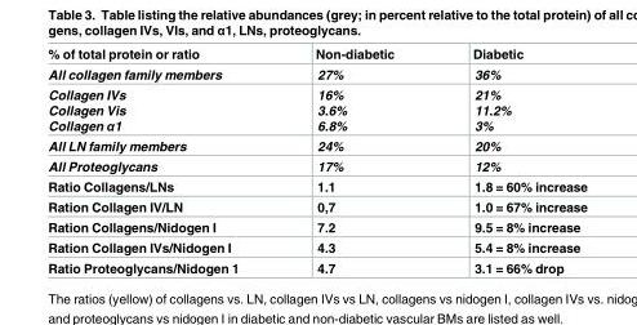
<table><thead><tr><td>% of total protein or ratio</td><td>Non-diabetic</td><td>Diabetic</td></tr></thead><tbody><tr><td>All collagen family members</td><td>27%</td><td>36%</td></tr><tr><td>Collagen IVs Collagen Vis Collagen α1</td><td>16% 3.6% 6.8%</td><td>21% 11.2% 3%</td></tr><tr><td>All LN family members</td><td>24%</td><td>20%</td></tr><tr><td>All Proteoglycans</td><td>17%</td><td>12%</td></tr><tr><td>Ratio Collagens/LNs</td><td>1.1</td><td>1.8 = 60% increase</td></tr><tr><td>Ration Collagen IV/LN</td><td>0,7</td><td>1.0 = 67% increase</td></tr><tr><td>Ration Collagens/Nidogen I</td><td>7.2</td><td>9.5 = 8% increase</td></tr><tr><td>Ration Collagen IVs/Nidogen I</td><td>4.3</td><td>5.4 = 8% increase</td></tr><tr><td>Ratio Proteoglycans/Nidogen 1</td><td>4.7</td><td>3.1 = 66% drop</td></tr></tbody></table>